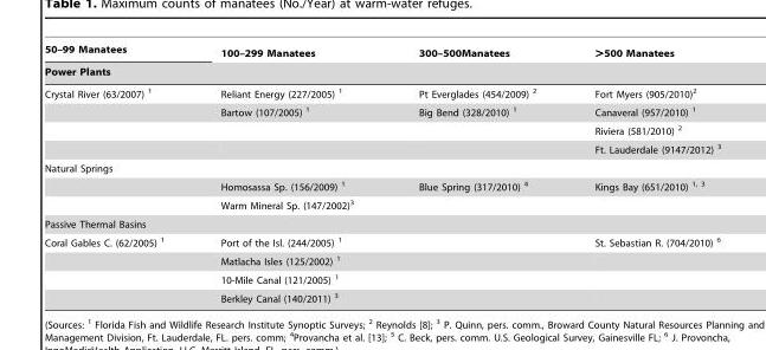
<table><thead><tr><td>50–99 Manatees</td><td>100–299 Manatees</td><td>300–500Manatees</td><td>&gt;500 Manatees</td></tr><tr><td colspan="4">Power Plants</td></tr></thead><tbody><tr><td rowspan="4">Crystal River (63/2007) <sup>1</sup></td><td>Reliant Energy (227/2005) <sup>1</sup></td><td>Pt Everglades (454/2009) <sup>2</sup></td><td>Fort Myers (905/2010)<sup>2</sup></td></tr><tr><td>Bartow (107/2005) <sup>1</sup></td><td>Big Bend (328/2010) <sup>1</sup></td><td>Canaveral (957/2010) <sup>1</sup></td></tr><tr><td></td><td></td><td>Riviera (581/2010) <sup>2</sup></td></tr><tr><td></td><td></td><td>Ft. Lauderdale (9147/2012) <sup>3</sup></td></tr><tr><td colspan="4">Natural Springs</td></tr><tr><td></td><td>Homosassa Sp. (156/2009) <sup>1</sup></td><td>Blue Spring (317/2010) <sup>4</sup></td><td>Kings Bay (651/2010) <sup>1, 3</sup></td></tr><tr><td></td><td>Warm Mineral Sp. (147/2002)<sup>3</sup></td><td></td><td></td></tr><tr><td colspan="4">Passive Thermal Basins</td></tr><tr><td rowspan="4">Coral Gables C. (62/2005) <sup>1</sup></td><td>Port of the Isl. (244/2005) <sup>1</sup></td><td></td><td>St. Sebastian R. (704/2010) <sup>6</sup></td></tr><tr><td>Matlacha Isles (125/2002) <sup>1</sup></td><td></td><td></td></tr><tr><td>10-Mile Canal (121/2005) <sup>1</sup></td><td></td><td></td></tr><tr><td>Berkley Canal (140/2011) <sup>3</sup></td><td></td><td></td></tr></tbody></table>